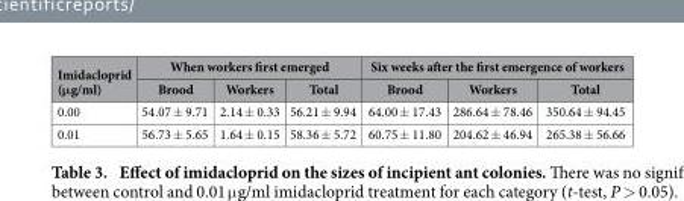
<table><thead><tr><td rowspan="2">Imidacloprid (μg/ml)</td><td colspan="3">When workers first emerged</td><td colspan="3">Six weeks after the first emergence of workers</td></tr><tr><td>Brood</td><td>Workers</td><td>Total</td><td>Brood</td><td>Workers</td><td>Total</td></tr></thead><tbody><tr><td>0.00</td><td>54.07 ± 9.71</td><td>2.14 ± 0.33</td><td>56.21 ± 9.94</td><td>64.00 ± 17.43</td><td>286.64 ± 78.46</td><td>350.64 ± 94.45</td></tr><tr><td>0.01</td><td>56.73 ± 5.65</td><td>1.64 ± 0.15</td><td>58.36 ± 5.72</td><td>60.75 ± 11.80</td><td>204.62 ± 46.94</td><td>265.38 ± 56.66</td></tr></tbody></table>